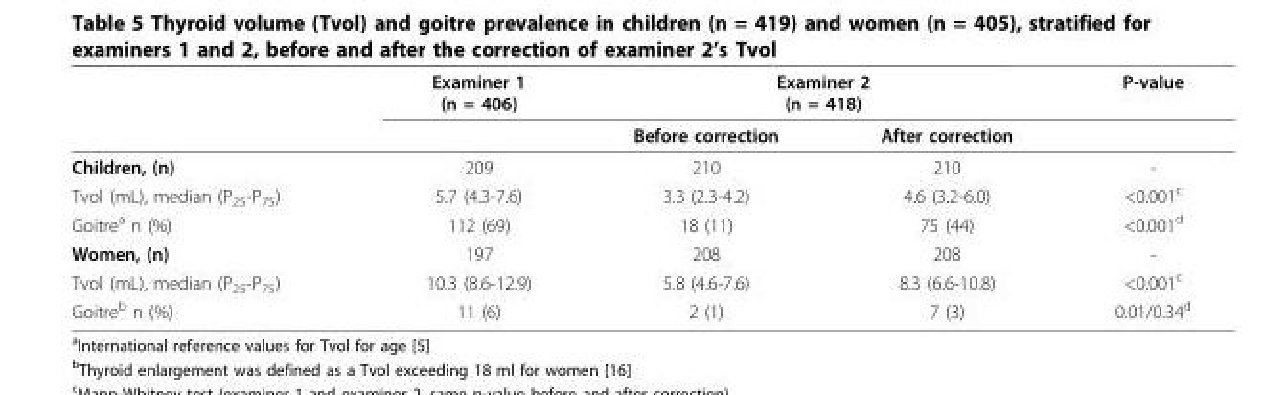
<table><thead><tr><td rowspan="2"></td><td rowspan="2">Examiner 1 (n = 406)</td><td colspan="2">Examiner 2 (n = 418)</td><td rowspan="2">P-value</td></tr><tr><td>Before correction</td><td>After correction</td></tr></thead><tbody><tr><td>Children, (n)</td><td>209</td><td>210</td><td>210</td><td>-</td></tr><tr><td>Tvol (mL), median (P<sub>25</sub>-P<sub>75</sub>)</td><td>5.7 (4.3-7.6)</td><td>3.3 (2.3-4.2)</td><td>4.6 (3.2-6.0)</td><td>&lt;0.001<sup>c</sup></td></tr><tr><td>Goitre<sup>a</sup> n (%)</td><td>112 (69)</td><td>18 (11)</td><td>75 (44)</td><td>&lt;0.001<sup>d</sup></td></tr><tr><td>Women, (n)</td><td>197</td><td>208</td><td>208</td><td>-</td></tr><tr><td>Tvol (mL), median (P<sub>25</sub>-P<sub>75</sub>)</td><td>10.3 (8.6-12.9)</td><td>5.8 (4.6-7.6)</td><td>8.3 (6.6-10.8)</td><td>&lt;0.001<sup>c</sup></td></tr><tr><td>Goitre<sup>b</sup> n (%)</td><td>11 (6)</td><td>2 (1)</td><td>7 (3)</td><td>0.01/0.34<sup>d</sup></td></tr></tbody></table>